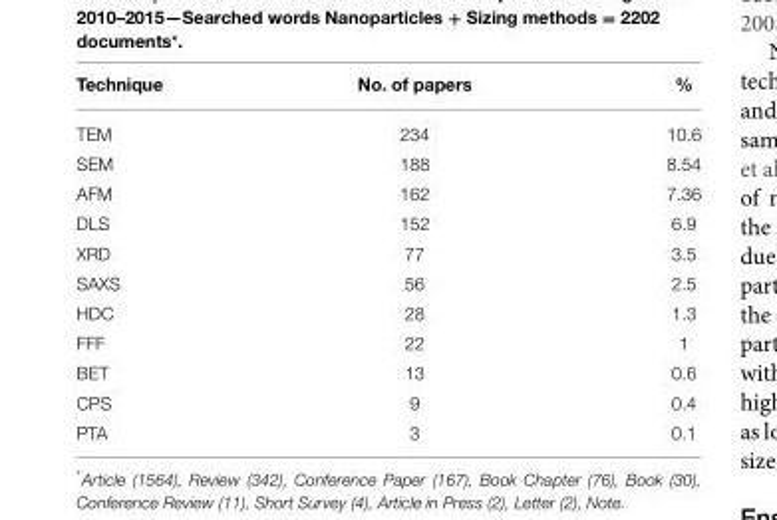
<table><thead><tr><td>Technique</td><td>No. of papers</td><td>%</td></tr></thead><tbody><tr><td>TEM</td><td>234</td><td>10.6</td></tr><tr><td>SEM</td><td>188</td><td>8.54</td></tr><tr><td>AFM</td><td>162</td><td>7.36</td></tr><tr><td>DLS</td><td>152</td><td>6.9</td></tr><tr><td>XRD</td><td>77</td><td>3.5</td></tr><tr><td>SAXS</td><td>56</td><td>2.5</td></tr><tr><td>HDC</td><td>28</td><td>1.3</td></tr><tr><td>FFF</td><td>22</td><td>1</td></tr><tr><td>BET</td><td>13</td><td>0.6</td></tr><tr><td>CPS</td><td>9</td><td>0.4</td></tr><tr><td>PTA</td><td>3</td><td>0.1</td></tr></tbody></table>